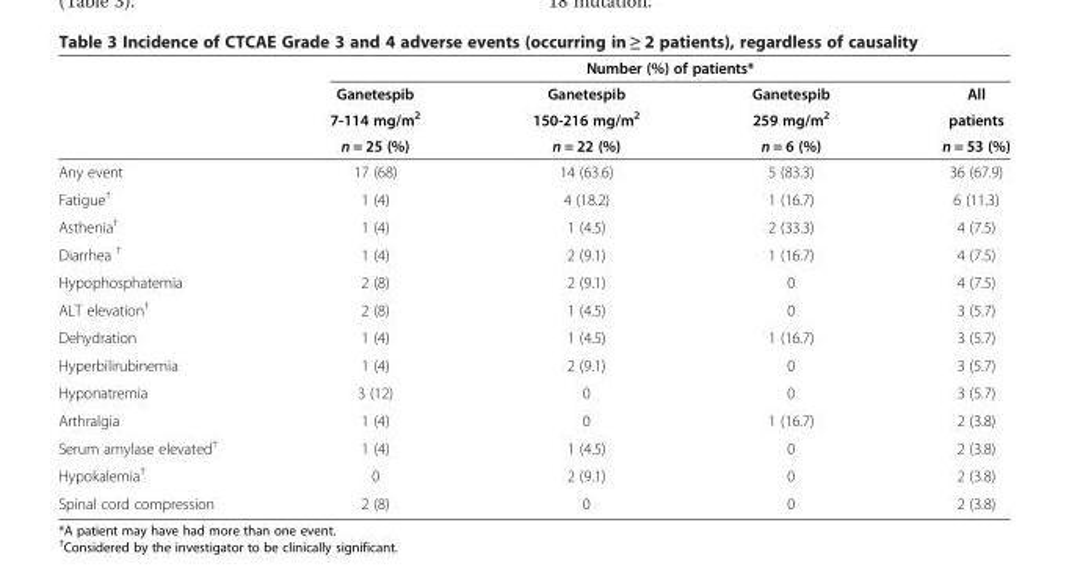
<table><thead><tr><td rowspan="4"></td><td colspan="4">Number (%) of patients*</td></tr><tr><td rowspan="3">Ganetespib 7-114 mg/m<sup>2</sup> n = 25 (%)</td><td rowspan="3">Ganetespib 150-216 mg/m<sup>2</sup> n = 22 (%)</td><td rowspan="3">Ganetespib 259 mg/m<sup>2</sup> n = 6 (%)</td><td rowspan="3">All patients n = 53 (%)</td></tr><tr></tr><tr></tr></thead><tbody><tr><td>Any event</td><td>17 (68)</td><td>14 (63.6)</td><td>5 (83.3)</td><td>36 (67.9)</td></tr><tr><td>Fatigue<sup>†</sup></td><td>1 (4)</td><td>4 (18.2)</td><td>1 (16.7)</td><td>6 (11.3)</td></tr><tr><td>Asthenia<sup>†</sup></td><td>1 (4)</td><td>1 (4.5)</td><td>2 (33.3)</td><td>4 (7.5)</td></tr><tr><td>Diarrhea <sup>†</sup></td><td>1 (4)</td><td>2 (9.1)</td><td>1 (16.7)</td><td>4 (7.5)</td></tr><tr><td>Hypophosphatemia</td><td>2 (8)</td><td>2 (9.1)</td><td>0</td><td>4 (7.5)</td></tr><tr><td>ALT elevation<sup>†</sup></td><td>2 (8)</td><td>1 (4.5)</td><td>0</td><td>3 (5.7)</td></tr><tr><td>Dehydration</td><td>1 (4)</td><td>1 (4.5)</td><td>1 (16.7)</td><td>3 (5.7)</td></tr><tr><td>Hyperbilirubinemia</td><td>1 (4)</td><td>2 (9.1)</td><td>0</td><td>3 (5.7)</td></tr><tr><td>Hyponatremia</td><td>3 (12)</td><td>0</td><td>0</td><td>3 (5.7)</td></tr><tr><td>Arthralgia</td><td>1 (4)</td><td>0</td><td>1 (16.7)</td><td>2 (3.8)</td></tr><tr><td>Serum amylase elevated<sup>†</sup></td><td>1 (4)</td><td>1 (4.5)</td><td>0</td><td>2 (3.8)</td></tr><tr><td>Hypokalemia<sup>†</sup></td><td>0</td><td>2 (9.1)</td><td>0</td><td>2 (3.8)</td></tr><tr><td>Spinal cord compression</td><td>2 (8)</td><td>0</td><td>0</td><td>2 (3.8)</td></tr></tbody></table>